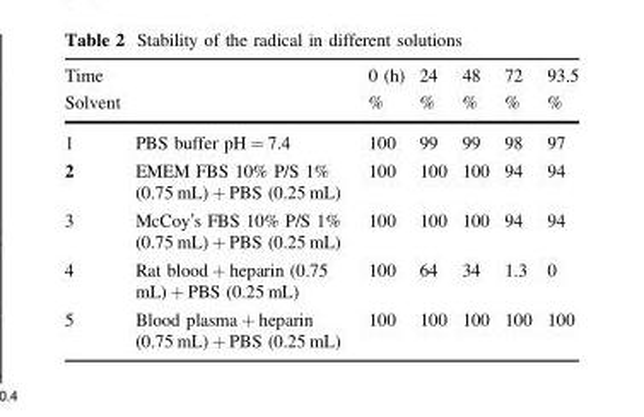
<table><thead><tr><td rowspan="2">Time Solvent</td><td rowspan="2"></td><td rowspan="2">0 (h) %</td><td rowspan="2">24 %</td><td rowspan="2">48 %</td><td rowspan="2">72 %</td><td rowspan="2">93.5 %</td></tr><tr></tr></thead><tbody><tr><td>1</td><td>PBS buffer pH = 7.4</td><td>100</td><td>99</td><td>99</td><td>98</td><td>97</td></tr><tr><td>2</td><td>EMEM FBS 10% P/S 1% (0.75 mL) + PBS (0.25 mL)</td><td>100</td><td>100</td><td>100</td><td>94</td><td>94</td></tr><tr><td>3</td><td>McCoy’s FBS 10% P/S 1% (0.75 mL) + PBS (0.25 mL)</td><td>100</td><td>100</td><td>100</td><td>94</td><td>94</td></tr><tr><td>4</td><td>Rat blood + heparin (0.75 mL) + PBS (0.25 mL)</td><td>100</td><td>64</td><td>34</td><td>1.3</td><td>0</td></tr><tr><td>5</td><td>Blood plasma + heparin (0.75 mL) + PBS (0.25 mL)</td><td>100</td><td>100</td><td>100</td><td>100</td><td>100</td></tr></tbody></table>